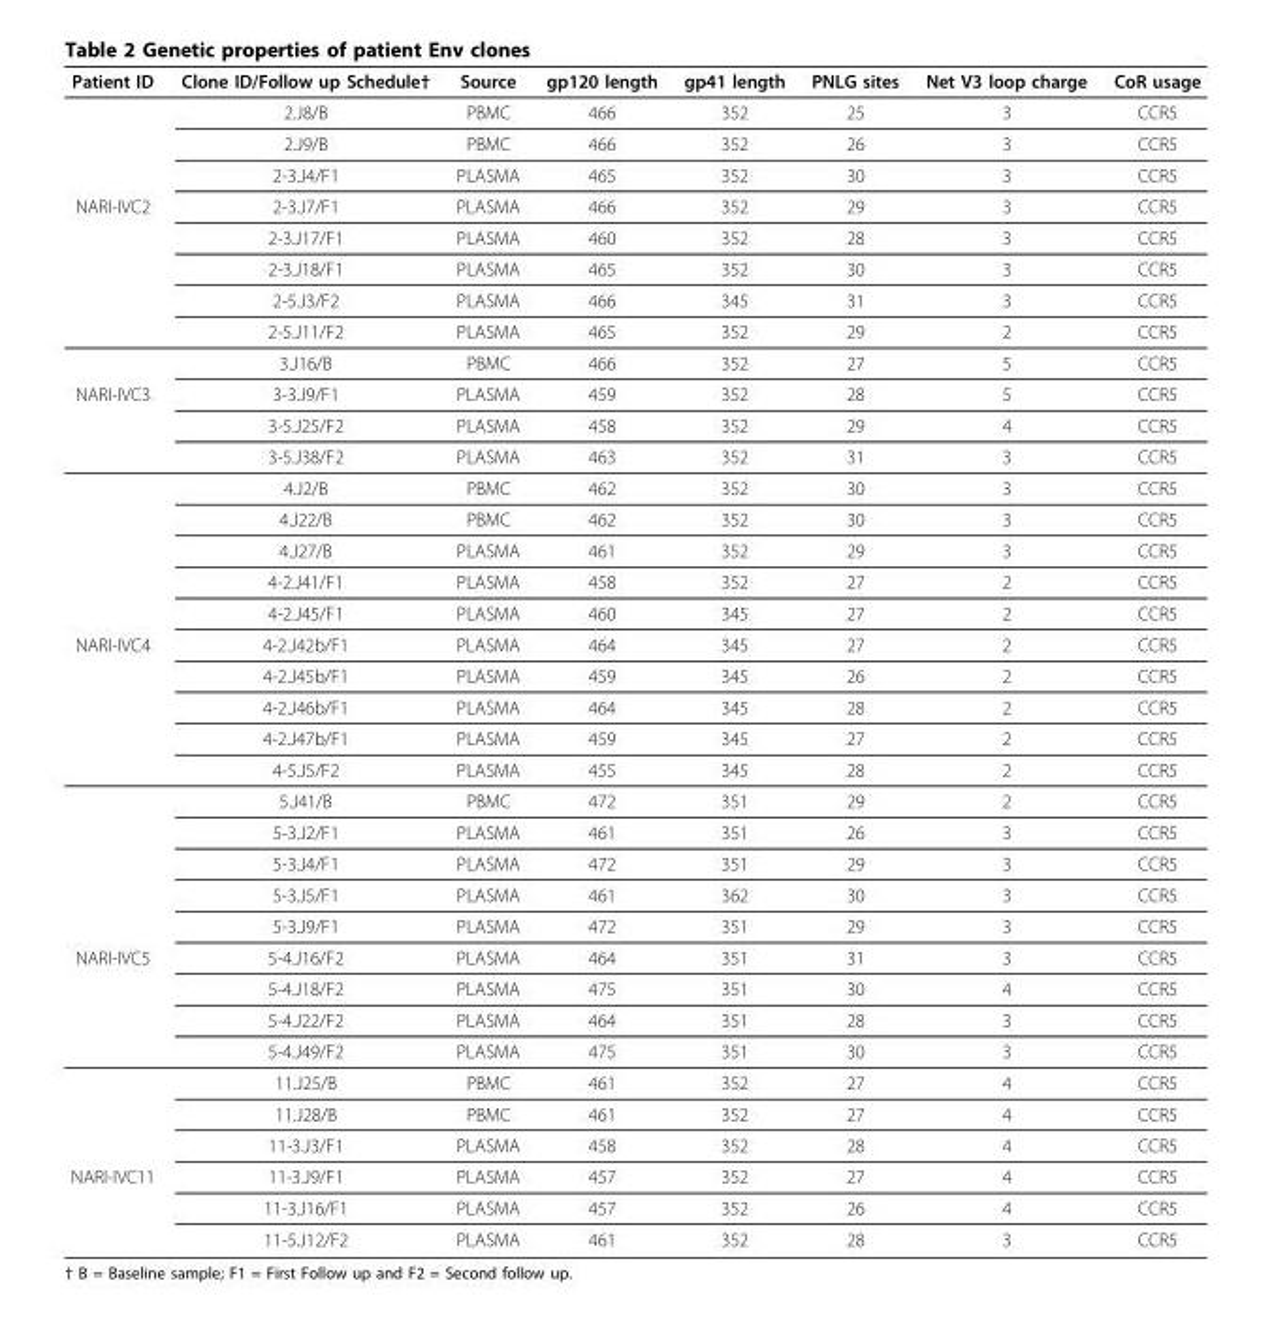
<table><thead><tr><td>Patient ID</td><td>Clone ID/Follow up Schedule†</td><td>Source</td><td>gp120 length</td><td>gp41 length</td><td>PNLG sites</td><td>Net V3 loop charge</td><td>CoR usage</td></tr></thead><tbody><tr><td></td><td>2.J8/B</td><td>PBMC</td><td>466</td><td>352</td><td>25</td><td>3</td><td>CCR5</td></tr><tr><td></td><td>2.J9/B</td><td>PBMC</td><td>466</td><td>352</td><td>26</td><td>3</td><td>CCR5</td></tr><tr><td></td><td>2-3.J4/F1</td><td>PLASMA</td><td>465</td><td>352</td><td>30</td><td>3</td><td>CCR5</td></tr><tr><td rowspan="6">NARI-IVC2</td><td>2-3.J7/F1</td><td>PLASMA</td><td>466</td><td>352</td><td>29</td><td>3</td><td>CCR5</td></tr><tr><td>2-3.J17/F1</td><td>PLASMA</td><td>460</td><td>352</td><td>28</td><td>3</td><td>CCR5</td></tr><tr><td>2-3.J18/F1</td><td>PLASMA</td><td>465</td><td>352</td><td>30</td><td>3</td><td>CCR5</td></tr><tr><td>2-5.J3/F2</td><td>PLASMA</td><td>466</td><td>345</td><td>31</td><td>3</td><td>CCR5</td></tr><tr><td>2-5.J11/F2</td><td>PLASMA</td><td>465</td><td>352</td><td>29</td><td>2</td><td>CCR5</td></tr><tr><td>3.J16/B</td><td>PBMC</td><td>466</td><td>352</td><td>27</td><td>5</td><td>CCR5</td></tr><tr><td rowspan="8">NARI-IVC3</td><td>3-3.J9/F1</td><td>PLASMA</td><td>459</td><td>352</td><td>28</td><td>5</td><td>CCR5</td></tr><tr><td>3-5.J25/F2</td><td>PLASMA</td><td>458</td><td>352</td><td>29</td><td>4</td><td>CCR5</td></tr><tr><td>3-5.J38/F2</td><td>PLASMA</td><td>463</td><td>352</td><td>31</td><td>3</td><td>CCR5</td></tr><tr><td>4.J2/B</td><td>PBMC</td><td>462</td><td>352</td><td>30</td><td>3</td><td>CCR5</td></tr><tr><td>4.J22/B</td><td>PBMC</td><td>462</td><td>352</td><td>30</td><td>3</td><td>CCR5</td></tr><tr><td>4.J27/B</td><td>PLASMA</td><td>461</td><td>352</td><td>29</td><td>3</td><td>CCR5</td></tr><tr><td>4-2.J41/F1</td><td>PLASMA</td><td>458</td><td>352</td><td>27</td><td>2</td><td>CCR5</td></tr><tr><td>4-2.J45/F1</td><td>PLASMA</td><td>460</td><td>345</td><td>27</td><td>2</td><td>CCR5</td></tr><tr><td rowspan="10">NARI-IVC4</td><td>4-2.J42b/F1</td><td>PLASMA</td><td>464</td><td>345</td><td>27</td><td>2</td><td>CCR5</td></tr><tr><td>4-2.J45b/F1</td><td>PLASMA</td><td>459</td><td>345</td><td>26</td><td>2</td><td>CCR5</td></tr><tr><td>4-2.J46b/F1</td><td>PLASMA</td><td>464</td><td>345</td><td>28</td><td>2</td><td>CCR5</td></tr><tr><td>4-2.J47b/F1</td><td>PLASMA</td><td>459</td><td>345</td><td>27</td><td>2</td><td>CCR5</td></tr><tr><td>4-5.J5/F2</td><td>PLASMA</td><td>455</td><td>345</td><td>28</td><td>2</td><td>CCR5</td></tr><tr><td>5.J41/B</td><td>PBMC</td><td>472</td><td>351</td><td>29</td><td>2</td><td>CCR5</td></tr><tr><td>5-3.J2/F1</td><td>PLASMA</td><td>461</td><td>351</td><td>26</td><td>3</td><td>CCR5</td></tr><tr><td>5-3.J4/F1</td><td>PLASMA</td><td>472</td><td>351</td><td>29</td><td>3</td><td>CCR5</td></tr><tr><td>5-3.J5/F1</td><td>PLASMA</td><td>461</td><td>362</td><td>30</td><td>3</td><td>CCR5</td></tr><tr><td>5-3.J9/F1</td><td>PLASMA</td><td>472</td><td>351</td><td>29</td><td>3</td><td>CCR5</td></tr><tr><td rowspan="7">NARI-IVC5</td><td>5-4.J16/F2</td><td>PLASMA</td><td>464</td><td>351</td><td>31</td><td>3</td><td>CCR5</td></tr><tr><td>5-4.J18/F2</td><td>PLASMA</td><td>475</td><td>351</td><td>30</td><td>4</td><td>CCR5</td></tr><tr><td>5-4.J22/F2</td><td>PLASMA</td><td>464</td><td>351</td><td>28</td><td>3</td><td>CCR5</td></tr><tr><td>5-4.J49/F2</td><td>PLASMA</td><td>475</td><td>351</td><td>30</td><td>3</td><td>CCR5</td></tr><tr><td>11.J25/B</td><td>PBMC</td><td>461</td><td>352</td><td>27</td><td>4</td><td>CCR5</td></tr><tr><td>11.J28/B</td><td>PBMC</td><td>461</td><td>352</td><td>27</td><td>4</td><td>CCR5</td></tr><tr><td>11-3.J3/F1</td><td>PLASMA</td><td>458</td><td>352</td><td>28</td><td>4</td><td>CCR5</td></tr><tr><td rowspan="3">NARI-IVC11</td><td>11-3.J9/F1</td><td>PLASMA</td><td>457</td><td>352</td><td>27</td><td>4</td><td>CCR5</td></tr><tr><td>11-3.J16/F1</td><td>PLASMA</td><td>457</td><td>352</td><td>26</td><td>4</td><td>CCR5</td></tr><tr><td>11-5.J12/F2</td><td>PLASMA</td><td>461</td><td>352</td><td>28</td><td>3</td><td>CCR5</td></tr></tbody></table>